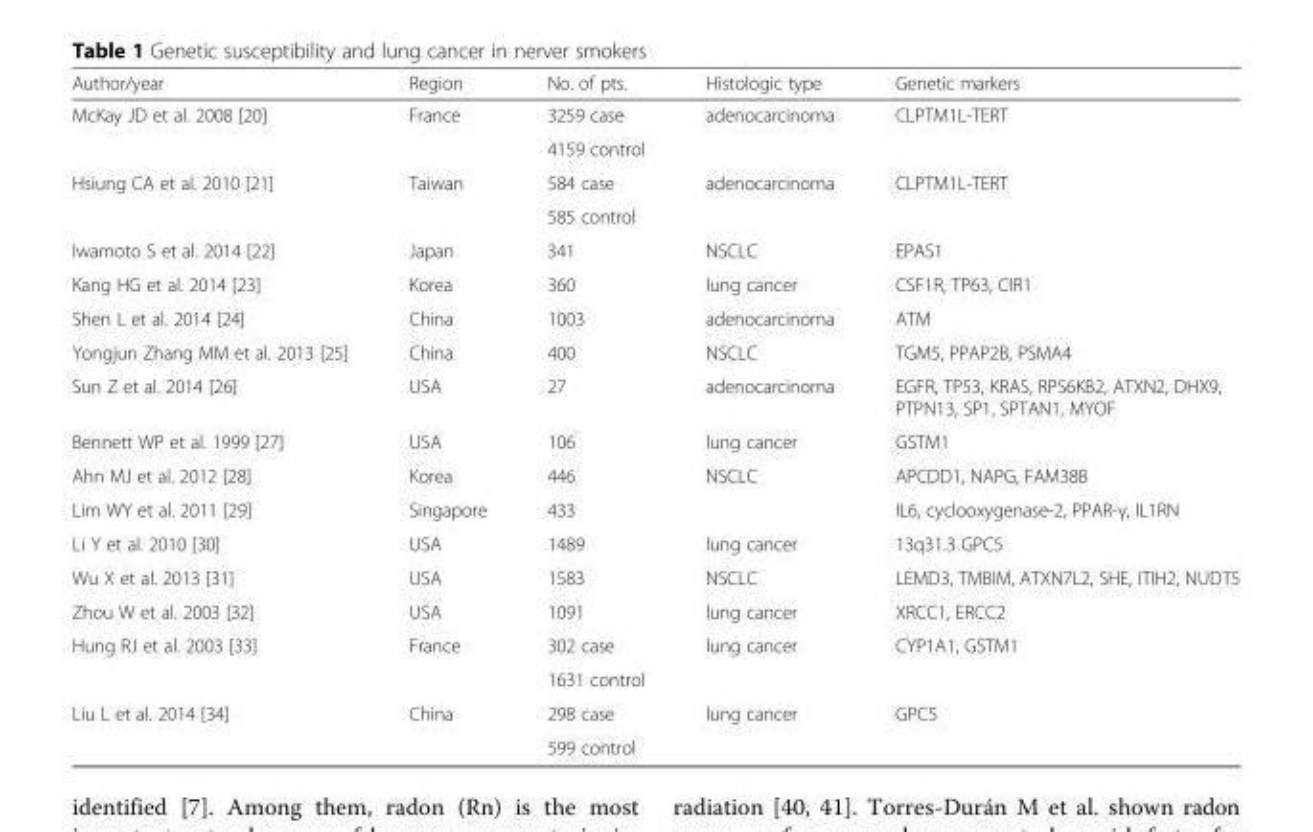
<table><thead><tr><td>Author/year</td><td>Region</td><td>No. of pts.</td><td>Histologic type</td><td>Genetic markers</td></tr></thead><tbody><tr><td rowspan="2">McKay JD et al. 2008 [20]</td><td rowspan="2">France</td><td>3259 case</td><td rowspan="2">adenocarcinoma</td><td rowspan="2">CLPTM1L-TERT</td></tr><tr><td>4159 control</td></tr><tr><td rowspan="2">Hsiung CA et al. 2010 [21]</td><td rowspan="2">Taiwan</td><td>584 case</td><td rowspan="2">adenocarcinoma</td><td rowspan="2">CLPTM1L-TERT</td></tr><tr><td>585 control</td></tr><tr><td>Iwamoto S et al. 2014 [22]</td><td>Japan</td><td>341</td><td>NSCLC</td><td>EPAS1</td></tr><tr><td>Kang HG et al. 2014 [23]</td><td>Korea</td><td>360</td><td>lung cancer</td><td>CSF1R, TP63, CIR1</td></tr><tr><td>Shen L et al. 2014 [24]</td><td>China</td><td>1003</td><td>adenocarcinoma</td><td>ATM</td></tr><tr><td>Yongjun Zhang MM et al. 2013 [25]</td><td>China</td><td>400</td><td>NSCLC</td><td>TGM5, PPAP2B, PSMA4</td></tr><tr><td>Sun Z et al. 2014 [26]</td><td>USA</td><td>27</td><td>adenocarcinoma</td><td>EGFR, TP53, KRAS, RPS6KB2, ATXN2, DHX9, PTPN13, SP1, SPTAN1, MYOF</td></tr><tr><td>Bennett WP et al. 1999 [27]</td><td>USA</td><td>106</td><td>lung cancer</td><td>GSTM1</td></tr><tr><td>Ahn MJ et al. 2012 [28]</td><td>Korea</td><td>446</td><td>NSCLC</td><td>APCDD1, NAPG, FAM38B</td></tr><tr><td>Lim WY et al. 2011 [29]</td><td>Singapore</td><td>433</td><td></td><td>IL6, cyclooxygenase-2, PPAR-γ, IL1RN</td></tr><tr><td>Li Y et al. 2010 [30]</td><td>USA</td><td>1489</td><td>lung cancer</td><td>13q31.3 GPC5</td></tr><tr><td>Wu X et al. 2013 [31]</td><td>USA</td><td>1583</td><td>NSCLC</td><td>LEMD3, TMBIM, ATXN7L2, SHE, ITIH2, NUDT5</td></tr><tr><td>Zhou W et al. 2003 [32]</td><td>USA</td><td>1091</td><td>lung cancer</td><td>XRCC1, ERCC2</td></tr><tr><td rowspan="2">Hung RJ et al. 2003 [33]</td><td rowspan="2">France</td><td>302 case</td><td rowspan="2">lung cancer</td><td rowspan="2">CYP1A1, GSTM1</td></tr><tr><td>1631 control</td></tr><tr><td rowspan="2">Liu L et al. 2014 [34]</td><td rowspan="2">China</td><td>298 case</td><td rowspan="2">lung cancer</td><td rowspan="2">GPC5</td></tr><tr><td>599 control</td></tr></tbody></table>